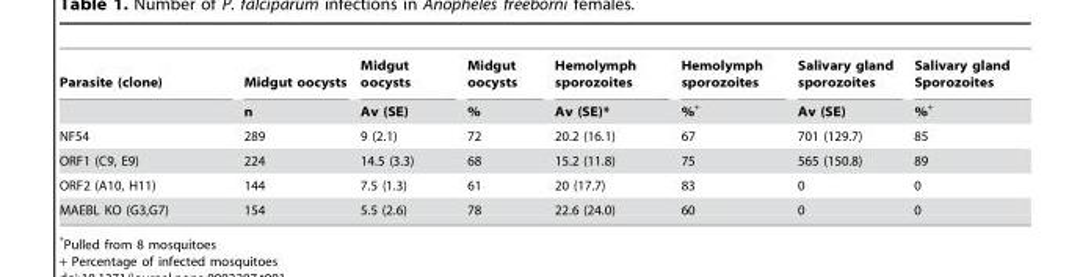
<table><thead><tr><td rowspan="2">Parasite (clone)</td><td rowspan="2">Midgut oocysts n</td><td rowspan="2">Midgut oocysts Av (SE)</td><td rowspan="2">Midgut oocysts %</td><td rowspan="2">Hemolymph sporozoites Av (SE)*</td><td rowspan="2">Hemolymph sporozoites %+</td><td rowspan="2">Salivary gland sporozoites Av (SE)</td><td rowspan="2">Salivary gland Sporozoites %+</td></tr><tr></tr></thead><tbody><tr><td>NF54</td><td>289</td><td>9 (2.1)</td><td>72</td><td>20.2 (16.1)</td><td>67</td><td>701 (129.7)</td><td>85</td></tr><tr><td>ORF1 (C9, E9)</td><td>224</td><td>14.5 (3.3)</td><td>68</td><td>15.2 (11.8)</td><td>75</td><td>565 (150.8)</td><td>89</td></tr><tr><td>ORF2 (A10, H11)</td><td>144</td><td>7.5 (1.3)</td><td>61</td><td>20 (17.7)</td><td>83</td><td>0</td><td>0</td></tr><tr><td>MAEBL KO (G3,G7)</td><td>154</td><td>5.5 (2.6)</td><td>78</td><td>22.6 (24.0)</td><td>60</td><td>0</td><td>0</td></tr></tbody></table>